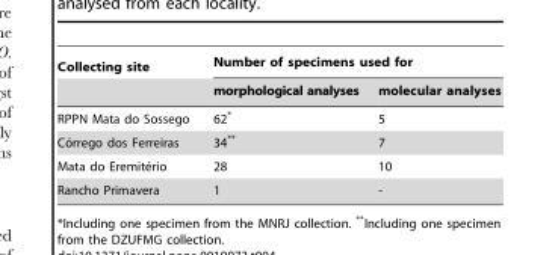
<table><thead><tr><td rowspan="2">Collecting site</td><td colspan="2">Number of specimens used for</td></tr><tr><td>morphological analyses</td><td>molecular analyses</td></tr></thead><tbody><tr><td>RPPN Mata do Sossego</td><td>62*</td><td>5</td></tr><tr><td>Co´rrego dos Ferreiras</td><td>34**</td><td>7</td></tr><tr><td>Mata do Eremite´rio</td><td>28</td><td>10</td></tr><tr><td>Rancho Primavera</td><td>1</td><td>-</td></tr></tbody></table>